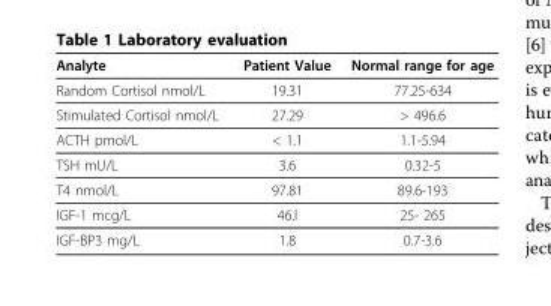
<table><thead><tr><td>Analyte</td><td>Patient Value</td><td>Normal range for age</td></tr></thead><tbody><tr><td>Random Cortisol nmol/L</td><td>19.31</td><td>77.25-634</td></tr><tr><td>Stimulated Cortisol nmol/L</td><td>27.29</td><td>&gt; 496.6</td></tr><tr><td>ACTH pmol/L</td><td>&lt; 1.1</td><td>1.1-5.94</td></tr><tr><td>TSH mU/L</td><td>3.6</td><td>0.32-5</td></tr><tr><td>T4 nmol/L</td><td>97.81</td><td>89.6-193</td></tr><tr><td>IGF-1 mcg/L</td><td>46.l</td><td>25- 265</td></tr><tr><td>IGF-BP3 mg/L</td><td>1.8</td><td>0.7-3.6</td></tr></tbody></table>